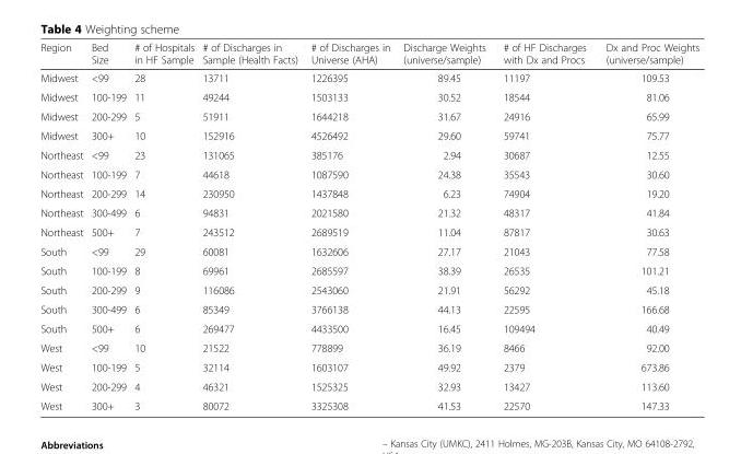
<table><thead><tr><td>Region</td><td>Bed Size</td><td># of Hospitals in HF Sample</td><td># of Discharges in Sample (Health Facts)</td><td># of Discharges in Universe (AHA)</td><td>Discharge Weights (universe/sample)</td><td># of HF Discharges with Dx and Procs</td><td>Dx and Proc Weights (universe/sample)</td></tr></thead><tbody><tr><td>Midwest</td><td>&lt;99</td><td>28</td><td>13711</td><td>1226395</td><td>89.45</td><td>11197</td><td>109.53</td></tr><tr><td>Midwest</td><td>100-199</td><td>11</td><td>49244</td><td>1503133</td><td>30.52</td><td>18544</td><td>81.06</td></tr><tr><td>Midwest</td><td>200-299</td><td>5</td><td>51911</td><td>1644218</td><td>31.67</td><td>24916</td><td>65.99</td></tr><tr><td>Midwest</td><td>300+</td><td>10</td><td>152916</td><td>4526492</td><td>29.60</td><td>59741</td><td>75.77</td></tr><tr><td>Northeast</td><td>&lt;99</td><td>23</td><td>131065</td><td>385176</td><td>2.94</td><td>30687</td><td>12.55</td></tr><tr><td>Northeast</td><td>100-199</td><td>7</td><td>44618</td><td>1087590</td><td>24.38</td><td>35543</td><td>30.60</td></tr><tr><td>Northeast</td><td>200-299</td><td>14</td><td>230950</td><td>1437848</td><td>6.23</td><td>74904</td><td>19.20</td></tr><tr><td>Northeast</td><td>300-499</td><td>6</td><td>94831</td><td>2021580</td><td>21.32</td><td>48317</td><td>41.84</td></tr><tr><td>Northeast</td><td>500+</td><td>7</td><td>243512</td><td>2689519</td><td>11.04</td><td>87817</td><td>30.63</td></tr><tr><td>South</td><td>&lt;99</td><td>29</td><td>60081</td><td>1632606</td><td>27.17</td><td>21043</td><td>77.58</td></tr><tr><td>South</td><td>100-199</td><td>8</td><td>69961</td><td>2685597</td><td>38.39</td><td>26535</td><td>101.21</td></tr><tr><td>South</td><td>200-299</td><td>9</td><td>116086</td><td>2543060</td><td>21.91</td><td>56292</td><td>45.18</td></tr><tr><td>South</td><td>300-499</td><td>6</td><td>85349</td><td>3766138</td><td>44.13</td><td>22595</td><td>166.68</td></tr><tr><td>South</td><td>500+</td><td>6</td><td>269477</td><td>4433500</td><td>16.45</td><td>109494</td><td>40.49</td></tr><tr><td>West</td><td>&lt;99</td><td>10</td><td>21522</td><td>778899</td><td>36.19</td><td>8466</td><td>92.00</td></tr><tr><td>West</td><td>100-199</td><td>5</td><td>32114</td><td>1603107</td><td>49.92</td><td>2379</td><td>673.86</td></tr><tr><td>West</td><td>200-299</td><td>4</td><td>46321</td><td>1525325</td><td>32.93</td><td>13427</td><td>113.60</td></tr><tr><td>West</td><td>300+</td><td>3</td><td>80072</td><td>3325308</td><td>41.53</td><td>22570</td><td>147.33</td></tr></tbody></table>